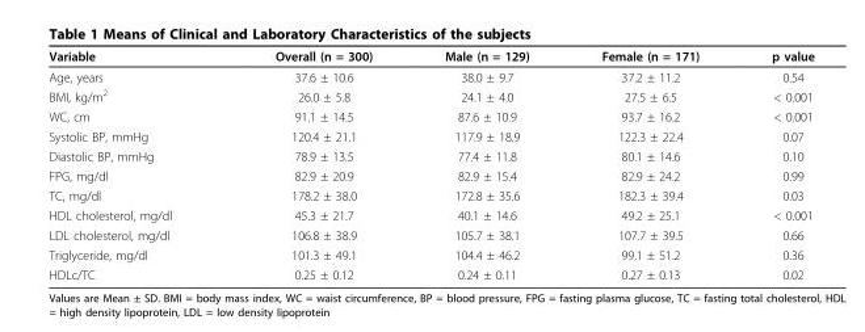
<table><thead><tr><td>Variable</td><td>Overall (n = 300)</td><td>Male (n = 129)</td><td>Female (n = 171)</td><td>p value</td></tr></thead><tbody><tr><td>Age, years</td><td>37.6 ± 10.6</td><td>38.0 ± 9.7</td><td>37.2 ± 11.2</td><td>0.54</td></tr><tr><td>BMI, kg/m<sup>2</sup></td><td>26.0 ± 5.8</td><td>24.1 ± 4.0</td><td>27.5 ± 6.5</td><td>&lt; 0.001</td></tr><tr><td>WC, cm</td><td>91.1 ± 14.5</td><td>87.6 ± 10.9</td><td>93.7 ± 16.2</td><td>&lt; 0.001</td></tr><tr><td>Systolic BP, mmHg</td><td>120.4 ± 21.1</td><td>117.9 ± 18.9</td><td>122.3 ± 22.4</td><td>0.07</td></tr><tr><td>Diastolic BP, mmHg</td><td>78.9 ± 13.5</td><td>77.4 ± 11.8</td><td>80.1 ± 14.6</td><td>0.10</td></tr><tr><td>FPG, mg/dl</td><td>82.9 ± 20.9</td><td>82.9 ± 15.4</td><td>82.9 ± 24.2</td><td>0.99</td></tr><tr><td>TC, mg/dl</td><td>178.2 ± 38.0</td><td>172.8 ± 35.6</td><td>182.3 ± 39.4</td><td>0.03</td></tr><tr><td>HDL cholesterol, mg/dl</td><td>45.3 ± 21.7</td><td>40.1 ± 14.6</td><td>49.2 ± 25.1</td><td>&lt; 0.001</td></tr><tr><td>LDL cholesterol, mg/dl</td><td>106.8 ± 38.9</td><td>105.7 ± 38.1</td><td>107.7 ± 39.5</td><td>0.66</td></tr><tr><td>Triglyceride, mg/dl</td><td>101.3 ± 49.1</td><td>104.4 ± 46.2</td><td>99.1 ± 51.2</td><td>0.36</td></tr><tr><td>HDLc/TC</td><td>0.25 ± 0.12</td><td>0.24 ± 0.11</td><td>0.27 ± 0.13</td><td>0.02</td></tr></tbody></table>